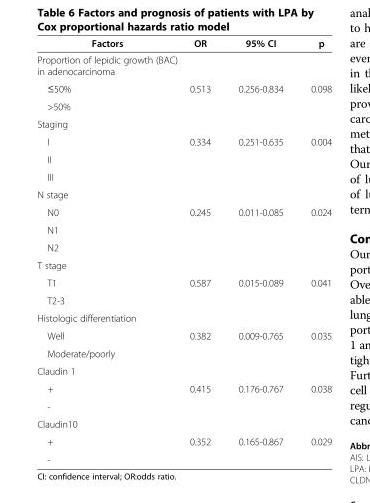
<table><thead><tr><td>Factors</td><td>OR</td><td>95% CI</td><td>p</td></tr></thead><tbody><tr><td colspan="4">Proportion of lepidic growth (BAC) in adenocarcinoma</td></tr><tr><td>≤50%</td><td>0.513</td><td>0.256-0.834</td><td>0.098</td></tr><tr><td colspan="4">&gt;50%</td></tr><tr><td colspan="4">Staging</td></tr><tr><td>I</td><td>0.334</td><td>0.251-0.635</td><td>0.004</td></tr><tr><td colspan="4">II</td></tr><tr><td colspan="4">III</td></tr><tr><td colspan="4">N stage</td></tr><tr><td>N0</td><td>0.245</td><td>0.011-0.085</td><td>0.024</td></tr><tr><td colspan="4">N1</td></tr><tr><td colspan="3">N2</td><td rowspan="2"></td></tr><tr><td colspan="3">T stage</td></tr><tr><td>T1</td><td>0.587</td><td>0.015-0.089</td><td>0.041</td></tr><tr><td colspan="4">T2-3</td></tr><tr><td colspan="4">Histologic differentiation</td></tr><tr><td>Well</td><td>0.382</td><td>0.009-0.765</td><td>0.035</td></tr><tr><td colspan="4">Moderate/poorly</td></tr><tr><td colspan="4">Claudin 1</td></tr><tr><td>+</td><td>0.415</td><td>0.176-0.767</td><td>0.038</td></tr><tr><td colspan="4">-</td></tr><tr><td colspan="4">Claudin10</td></tr><tr><td>+</td><td>0.352</td><td>0.165-0.867</td><td>0.029</td></tr><tr><td>-</td><td></td><td></td><td></td></tr></tbody></table>